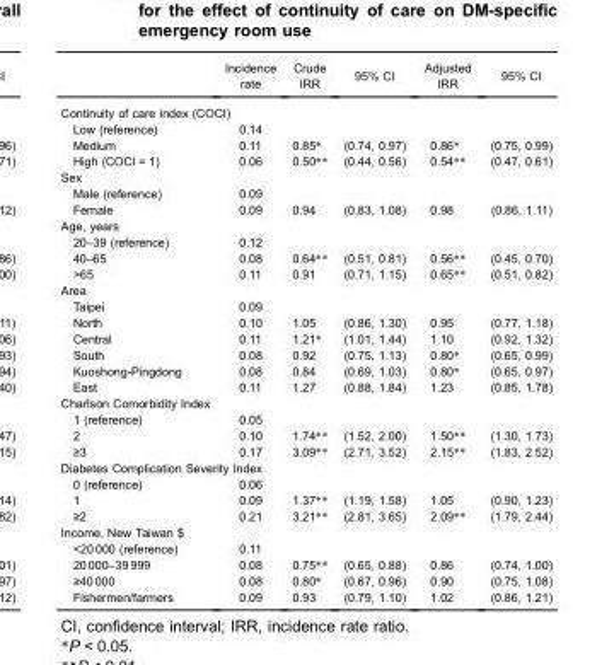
<table><thead><tr><td></td><td>Incidence rate</td><td>Crude IRR</td><td>95% CI</td><td>Adjusted IRR</td><td>95% CI</td></tr></thead><tbody><tr><td colspan="6">Continuity of care index (COCI)</td></tr><tr><td>Low (reference)</td><td>0.14</td><td></td><td></td><td></td><td></td></tr><tr><td>Medium</td><td>0.11</td><td>0.85*</td><td>(0.74, 0.97)</td><td>0.86*</td><td>(0.75, 0.99)</td></tr><tr><td>High (COCI = 1)</td><td>0.06</td><td>0.50**</td><td>(0.44, 0.56)</td><td>0.54**</td><td>(0.47, 0.61)</td></tr><tr><td colspan="6">Sex</td></tr><tr><td>Male (reference)</td><td>0.09</td><td></td><td></td><td></td><td></td></tr><tr><td>Female</td><td>0.09</td><td>0.94</td><td>(0.83, 1.08)</td><td>0.98</td><td>(0.86, 1.11)</td></tr><tr><td colspan="6">Age, years</td></tr><tr><td>20–39 (reference)</td><td>0.12</td><td></td><td></td><td></td><td></td></tr><tr><td>40–65</td><td>0.08</td><td>0.64**</td><td>(0.51, 0.81)</td><td>0.56**</td><td>(0.45, 0.70)</td></tr><tr><td>&gt;65</td><td>0.11</td><td>0.91</td><td>(0.71, 1.15)</td><td>0.65**</td><td>(0.51, 0.82)</td></tr><tr><td colspan="6">Area</td></tr><tr><td>Taipei</td><td>0.09</td><td></td><td></td><td></td><td></td></tr><tr><td>North</td><td>0.10</td><td>1.05</td><td>(0.86, 1.30)</td><td>0.95</td><td>(0.77, 1.18)</td></tr><tr><td>Central</td><td>0.11</td><td>1.21*</td><td>(1.01, 1.44)</td><td>1.10</td><td>(0.92, 1.32)</td></tr><tr><td>South</td><td>0.08</td><td>0.92</td><td>(0.75, 1.13)</td><td>0.80*</td><td>(0.65, 0.99)</td></tr><tr><td>Kuoshong-Pingdong</td><td>0.08</td><td>0.84</td><td>(0.69, 1.03)</td><td>0.80*</td><td>(0.65, 0.97)</td></tr><tr><td>East</td><td>0.11</td><td>1.27</td><td>(0.88, 1.84)</td><td>1.23</td><td>(0.85, 1.78)</td></tr><tr><td colspan="6">Charlson Comorbidity Index</td></tr><tr><td>1 (reference)</td><td>0.05</td><td></td><td></td><td></td><td></td></tr><tr><td>2</td><td>0.10</td><td>1.74**</td><td>(1.52, 2.00)</td><td>1.50**</td><td>(1.30, 1.73)</td></tr><tr><td>≥3</td><td>0.17</td><td>3.09**</td><td>(2.71, 3.52)</td><td>2.15**</td><td>(1.83, 2.52)</td></tr><tr><td colspan="6">Diabetes Complication Severity Index</td></tr><tr><td>0 (reference)</td><td>0.06</td><td></td><td></td><td></td><td></td></tr><tr><td>1</td><td>0.09</td><td>1.37**</td><td>(1.19, 1.58)</td><td>1.05</td><td>(0.90, 1.23)</td></tr><tr><td>≥2</td><td>0.21</td><td>3.21**</td><td>(2.81, 3.65)</td><td>2.09**</td><td>(1.79, 2.44)</td></tr><tr><td colspan="6">Income, New Taiwan $</td></tr><tr><td>&lt;20 000 (reference)</td><td>0.11</td><td></td><td></td><td></td><td></td></tr><tr><td>20 000–39 999</td><td>0.08</td><td>0.75**</td><td>(0.65, 0.88)</td><td>0.86</td><td>(0.74, 1.00)</td></tr><tr><td>≥40 000</td><td>0.08</td><td>0.80*</td><td>(0.67, 0.96)</td><td>0.90</td><td>(0.75, 1.08)</td></tr><tr><td>Fishermen/farmers</td><td>0.09</td><td>0.93</td><td>(0.79, 1.10)</td><td>1.02</td><td>(0.86, 1.21)</td></tr></tbody></table>